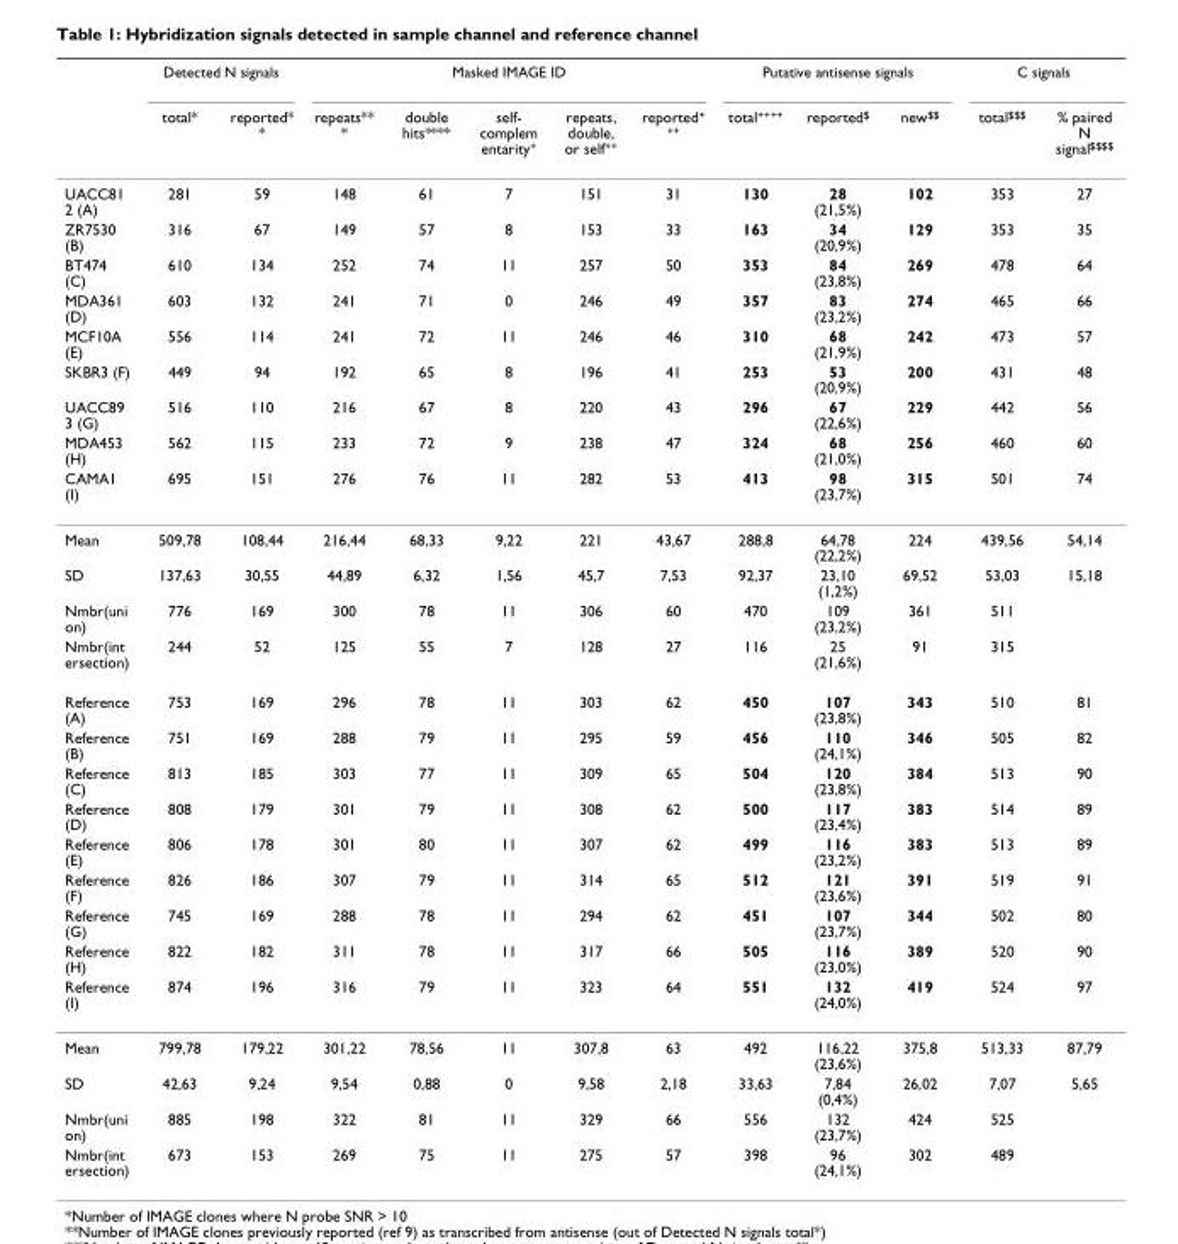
<table><thead><tr><td rowspan="2"></td><td colspan="2">Detected N signals</td><td colspan="5">Masked IMAGE ID</td><td colspan="3">Putative antisense signals</td><td colspan="2">C signals</td></tr><tr><td>total*</td><td>reported* *</td><td>repeats** *</td><td>double hits****</td><td>self- complem entarity<sup>+</sup></td><td>repeats, double, or self<sup>++</sup></td><td>reported<sup>+ ++</sup></td><td>total<sup>++++</sup></td><td>reported<sup>$</sup></td><td>new<sup>$$</sup></td><td>total<sup>$$$</sup></td><td>% paired N signal<sup>$$$$</sup></td></tr></thead><tbody><tr><td>UACC81 2 (A)</td><td>281</td><td>59</td><td>148</td><td>61</td><td>7</td><td>151</td><td>31</td><td>130</td><td>28 (21,5%)</td><td>102</td><td>353</td><td>27</td></tr><tr><td>ZR7530 (B)</td><td>316</td><td>67</td><td>149</td><td>57</td><td>8</td><td>153</td><td>33</td><td>163</td><td>34 (20,9%)</td><td>129</td><td>353</td><td>35</td></tr><tr><td>BT474 (C)</td><td>610</td><td>134</td><td>252</td><td>74</td><td>11</td><td>257</td><td>50</td><td>353</td><td>84 (23,8%)</td><td>269</td><td>478</td><td>64</td></tr><tr><td>MDA361 (D)</td><td>603</td><td>132</td><td>241</td><td>71</td><td>0</td><td>246</td><td>49</td><td>357</td><td>83 (23,2%)</td><td>274</td><td>465</td><td>66</td></tr><tr><td>MCF10A (E)</td><td>556</td><td>114</td><td>241</td><td>72</td><td>11</td><td>246</td><td>46</td><td>310</td><td>68 (21,9%)</td><td>242</td><td>473</td><td>57</td></tr><tr><td>SKBR3 (F)</td><td>449</td><td>94</td><td>192</td><td>65</td><td>8</td><td>196</td><td>41</td><td>253</td><td>53 (20,9%)</td><td>200</td><td>431</td><td>48</td></tr><tr><td>UACC89 3 (G)</td><td>516</td><td>110</td><td>216</td><td>67</td><td>8</td><td>220</td><td>43</td><td>296</td><td>67 (22,6%)</td><td>229</td><td>442</td><td>56</td></tr><tr><td>MDA453 (H)</td><td>562</td><td>115</td><td>233</td><td>72</td><td>9</td><td>238</td><td>47</td><td>324</td><td>68 (21,0%)</td><td>256</td><td>460</td><td>60</td></tr><tr><td>CAMA1 (I)</td><td>695</td><td>151</td><td>276</td><td>76</td><td>11</td><td>282</td><td>53</td><td>413</td><td>98 (23,7%)</td><td>315</td><td>501</td><td>74</td></tr><tr><td>Mean</td><td>509,78</td><td>108,44</td><td>216,44</td><td>68,33</td><td>9,22</td><td>221</td><td>43,67</td><td>288,8</td><td>64,78 (22,2%)</td><td>224</td><td>439,56</td><td>54,14</td></tr><tr><td>SD</td><td>137,63</td><td>30,55</td><td>44,89</td><td>6,32</td><td>1,56</td><td>45,7</td><td>7,53</td><td>92,37</td><td>23,10 (1,2%)</td><td>69,52</td><td>53,03</td><td>15,18</td></tr><tr><td>Nmbr(uni on)</td><td>776</td><td>169</td><td>300</td><td>78</td><td>11</td><td>306</td><td>60</td><td>470</td><td>109 (23,2%)</td><td>361</td><td>511</td><td></td></tr><tr><td>Nmbr(int ersection)</td><td>244</td><td>52</td><td>125</td><td>55</td><td>7</td><td>128</td><td>27</td><td>116</td><td>25 (21,6%)</td><td>91</td><td>315</td><td></td></tr><tr><td>Reference (A)</td><td>753</td><td>169</td><td>296</td><td>78</td><td>11</td><td>303</td><td>62</td><td>450</td><td>107 (23,8%)</td><td>343</td><td>510</td><td>81</td></tr><tr><td>Reference (B)</td><td>751</td><td>169</td><td>288</td><td>79</td><td>11</td><td>295</td><td>59</td><td>456</td><td>110 (24,1%)</td><td>346</td><td>505</td><td>82</td></tr><tr><td>Reference (C)</td><td>813</td><td>185</td><td>303</td><td>77</td><td>11</td><td>309</td><td>65</td><td>504</td><td>120 (23,8%)</td><td>384</td><td>513</td><td>90</td></tr><tr><td>Reference (D)</td><td>808</td><td>179</td><td>301</td><td>79</td><td>11</td><td>308</td><td>62</td><td>500</td><td>117 (23,4%)</td><td>383</td><td>514</td><td>89</td></tr><tr><td>Reference (E)</td><td>806</td><td>178</td><td>301</td><td>80</td><td>11</td><td>307</td><td>62</td><td>499</td><td>116 (23,2%)</td><td>383</td><td>513</td><td>89</td></tr><tr><td>Reference (F)</td><td>826</td><td>186</td><td>307</td><td>79</td><td>11</td><td>314</td><td>65</td><td>512</td><td>121 (23,6%)</td><td>391</td><td>519</td><td>91</td></tr><tr><td>Reference (G)</td><td>745</td><td>169</td><td>288</td><td>78</td><td>11</td><td>294</td><td>62</td><td>451</td><td>107 (23,7%)</td><td>344</td><td>502</td><td>80</td></tr><tr><td>Reference (H)</td><td>822</td><td>182</td><td>311</td><td>78</td><td>11</td><td>317</td><td>66</td><td>505</td><td>116 (23,0%)</td><td>389</td><td>520</td><td>90</td></tr><tr><td>Reference (I)</td><td>874</td><td>196</td><td>316</td><td>79</td><td>11</td><td>323</td><td>64</td><td>551</td><td>132 (24,0%)</td><td>419</td><td>524</td><td>97</td></tr><tr><td>Mean</td><td>799,78</td><td>179,22</td><td>301,22</td><td>78,56</td><td>11</td><td>307,8</td><td>63</td><td>492</td><td>116,22 (23,6%)</td><td>375,8</td><td>513,33</td><td>87,79</td></tr><tr><td>SD</td><td>42,63</td><td>9,24</td><td>9,54</td><td>0,88</td><td>0</td><td>9,58</td><td>2,18</td><td>33,63</td><td>7,84 (0,4%)</td><td>26,02</td><td>7,07</td><td>5,65</td></tr><tr><td>Nmbr(uni on)</td><td>885</td><td>198</td><td>322</td><td>81</td><td>11</td><td>329</td><td>66</td><td>556</td><td>132 (23,7%)</td><td>424</td><td>525</td><td></td></tr><tr><td>Nmbr(int ersection)</td><td>673</td><td>153</td><td>269</td><td>75</td><td>11</td><td>275</td><td>57</td><td>398</td><td>96 (24,1%)</td><td>302</td><td>489</td><td></td></tr></tbody></table>